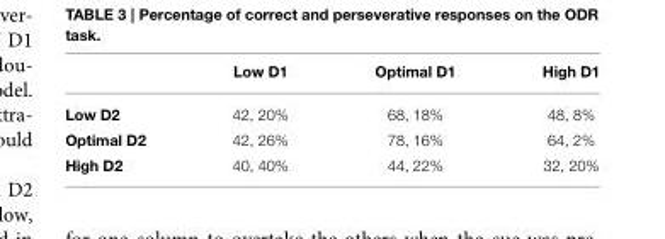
<table><thead><tr><td></td><td>Low D1</td><td>Optimal D1</td><td>High D1</td></tr></thead><tbody><tr><td>Low D2</td><td>42, 20%</td><td>68, 18%</td><td>48, 8%</td></tr><tr><td>Optimal D2</td><td>42, 26%</td><td>78, 16%</td><td>64, 2%</td></tr><tr><td>High D2</td><td>40, 40%</td><td>44, 22%</td><td>32, 20%</td></tr></tbody></table>